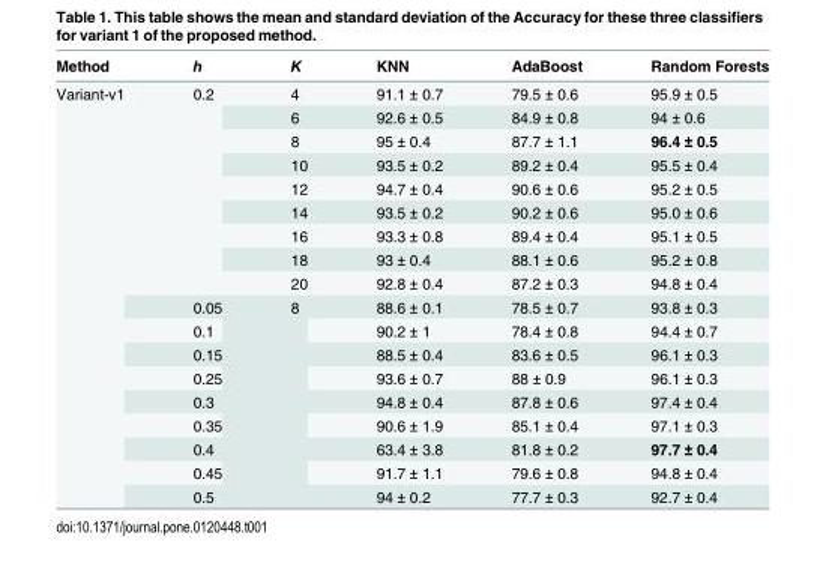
<table><thead><tr><td>Method</td><td>h</td><td>K</td><td>KNN</td><td>AdaBoost</td><td>Random Forests</td></tr></thead><tbody><tr><td rowspan="18">Variant-v1</td><td rowspan="9">0.2</td><td>4</td><td>91.1 ± 0.7</td><td>79.5 ± 0.6</td><td>95.9 ± 0.5</td></tr><tr><td>6</td><td>92.6 ± 0.5</td><td>84.9 ± 0.8</td><td>94 ± 0.6</td></tr><tr><td>8</td><td>95 ± 0.4</td><td>87.7 ± 1.1</td><td>96.4 ± 0.5</td></tr><tr><td>10</td><td>93.5 ± 0.2</td><td>89.2 ± 0.4</td><td>95.5 ± 0.4</td></tr><tr><td>12</td><td>94.7 ± 0.4</td><td>90.6 ± 0.6</td><td>95.2 ± 0.5</td></tr><tr><td>14</td><td>93.5 ± 0.2</td><td>90.2 ± 0.6</td><td>95.0 ± 0.6</td></tr><tr><td>16</td><td>93.3 ± 0.8</td><td>89.4 ± 0.4</td><td>95.1 ± 0.5</td></tr><tr><td>18</td><td>93 ± 0.4</td><td>88.1 ± 0.6</td><td>95.2 ± 0.8</td></tr><tr><td>20</td><td>92.8 ± 0.4</td><td>87.2 ± 0.3</td><td>94.8 ± 0.4</td></tr><tr><td>0.05</td><td rowspan="9">8</td><td>88.6 ± 0.1</td><td>78.5 ± 0.7</td><td>93.8 ± 0.3</td></tr><tr><td>0.1</td><td>90.2 ± 1</td><td>78.4 ± 0.8</td><td>94.4 ± 0.7</td></tr><tr><td>0.15</td><td>88.5 ± 0.4</td><td>83.6 ± 0.5</td><td>96.1 ± 0.3</td></tr><tr><td>0.25</td><td>93.6 ± 0.7</td><td>88 ± 0.9</td><td>96.1 ± 0.3</td></tr><tr><td>0.3</td><td>94.8 ± 0.4</td><td>87.8 ± 0.6</td><td>97.4 ± 0.4</td></tr><tr><td>0.35</td><td>90.6 ± 1.9</td><td>85.1 ± 0.4</td><td>97.1 ± 0.3</td></tr><tr><td>0.4</td><td>63.4 ± 3.8</td><td>81.8 ± 0.2</td><td>97.7 ± 0.4</td></tr><tr><td>0.45</td><td>91.7 ± 1.1</td><td>79.6 ± 0.8</td><td>94.8 ± 0.4</td></tr><tr><td>0.5</td><td>94 ± 0.2</td><td>77.7 ± 0.3</td><td>92.7 ± 0.4</td></tr></tbody></table>